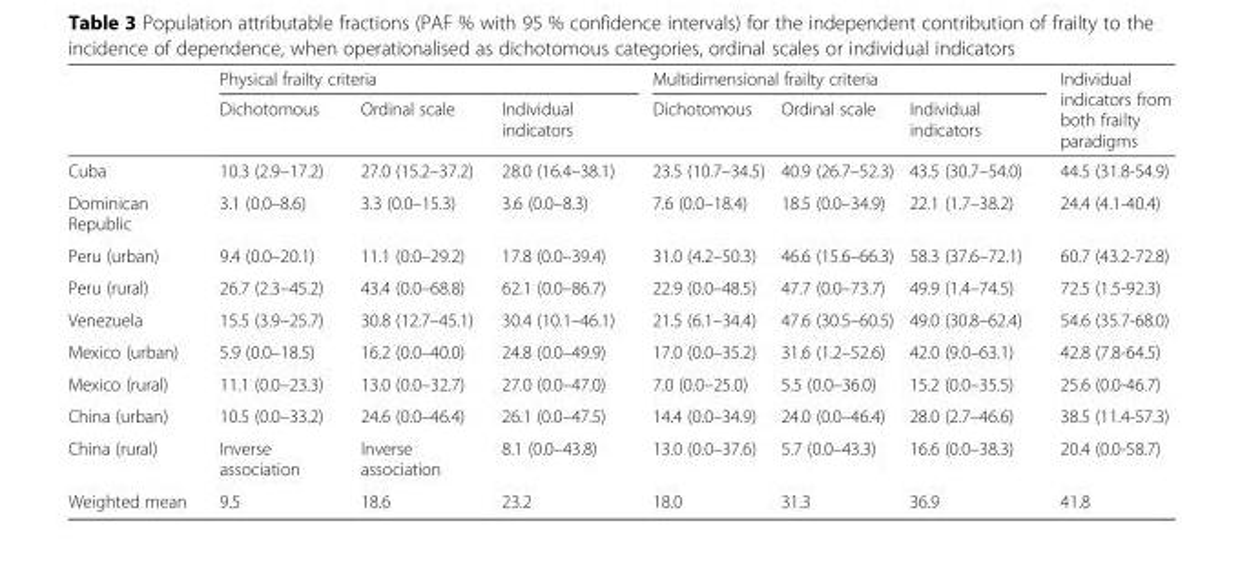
<table><thead><tr><td rowspan="2"></td><td colspan="3">Physical frailty criteria</td><td colspan="3">Multidimensional frailty criteria</td><td rowspan="2">Individual indicators from both frailty paradigms</td></tr><tr><td>Dichotomous</td><td>Ordinal scale</td><td>Individual indicators</td><td>Dichotomous</td><td>Ordinal scale</td><td>Individual indicators</td></tr></thead><tbody><tr><td>Cuba</td><td>10.3 (2.9–17.2)</td><td>27.0 (15.2–37.2)</td><td>28.0 (16.4–38.1)</td><td>23.5 (10.7–34.5)</td><td>40.9 (26.7–52.3)</td><td>43.5 (30.7–54.0)</td><td>44.5 (31.8-54.9)</td></tr><tr><td>Dominican Republic</td><td>3.1 (0.0–8.6)</td><td>3.3 (0.0–15.3)</td><td>3.6 (0.0–8.3)</td><td>7.6 (0.0–18.4)</td><td>18.5 (0.0–34.9)</td><td>22.1 (1.7–38.2)</td><td>24.4 (4.1-40.4)</td></tr><tr><td>Peru (urban)</td><td>9.4 (0.0–20.1)</td><td>11.1 (0.0–29.2)</td><td>17.8 (0.0–39.4)</td><td>31.0 (4.2–50.3)</td><td>46.6 (15.6–66.3)</td><td>58.3 (37.6–72.1)</td><td>60.7 (43.2-72.8)</td></tr><tr><td>Peru (rural)</td><td>26.7 (2.3–45.2)</td><td>43.4 (0.0–68.8)</td><td>62.1 (0.0–86.7)</td><td>22.9 (0.0–48.5)</td><td>47.7 (0.0–73.7)</td><td>49.9 (1.4–74.5)</td><td>72.5 (1.5-92.3)</td></tr><tr><td>Venezuela</td><td>15.5 (3.9–25.7)</td><td>30.8 (12.7–45.1)</td><td>30.4 (10.1–46.1)</td><td>21.5 (6.1–34.4)</td><td>47.6 (30.5–60.5)</td><td>49.0 (30.8–62.4)</td><td>54.6 (35.7-68.0)</td></tr><tr><td>Mexico (urban)</td><td>5.9 (0.0–18.5)</td><td>16.2 (0.0–40.0)</td><td>24.8 (0.0–49.9)</td><td>17.0 (0.0–35.2)</td><td>31.6 (1.2–52.6)</td><td>42.0 (9.0–63.1)</td><td>42.8 (7.8-64.5)</td></tr><tr><td>Mexico (rural)</td><td>11.1 (0.0–23.3)</td><td>13.0 (0.0–32.7)</td><td>27.0 (0.0–47.0)</td><td>7.0 (0.0–25.0)</td><td>5.5 (0.0–36.0)</td><td>15.2 (0.0–35.5)</td><td>25.6 (0.0-46.7)</td></tr><tr><td>China (urban)</td><td>10.5 (0.0–33.2)</td><td>24.6 (0.0–46.4)</td><td>26.1 (0.0–47.5)</td><td>14.4 (0.0–34.9)</td><td>24.0 (0.0–46.4)</td><td>28.0 (2.7–46.6)</td><td>38.5 (11.4-57.3)</td></tr><tr><td>China (rural)</td><td>Inverse association</td><td>Inverse association</td><td>8.1 (0.0–43.8)</td><td>13.0 (0.0–37.6)</td><td>5.7 (0.0–43.3)</td><td>16.6 (0.0–38.3)</td><td>20.4 (0.0-58.7)</td></tr><tr><td>Weighted mean</td><td>9.5</td><td>18.6</td><td>23.2</td><td>18.0</td><td>31.3</td><td>36.9</td><td>41.8</td></tr></tbody></table>